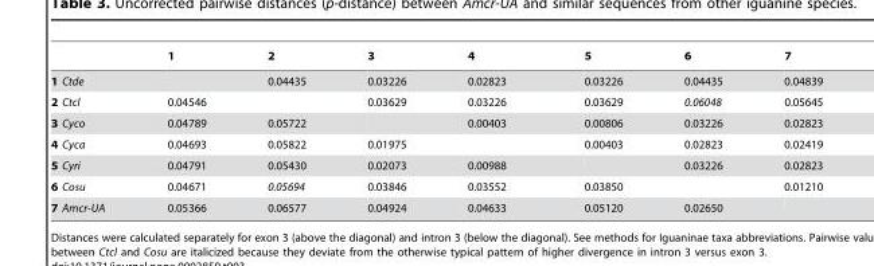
<table><thead><tr><td></td><td>1</td><td>2</td><td>3</td><td>4</td><td>5</td><td>6</td><td>7</td></tr></thead><tbody><tr><td>1 Ctde</td><td></td><td>0.04435</td><td>0.03226</td><td>0.02823</td><td>0.03226</td><td>0.04435</td><td>0.04839</td></tr><tr><td>2 Ctcl</td><td>0.04546</td><td></td><td>0.03629</td><td>0.03226</td><td>0.03629</td><td>0.06048</td><td>0.05645</td></tr><tr><td>3 Cyco</td><td>0.04789</td><td>0.05722</td><td></td><td>0.00403</td><td>0.00806</td><td>0.03226</td><td>0.02823</td></tr><tr><td>4 Cyca</td><td>0.04693</td><td>0.05822</td><td>0.01975</td><td></td><td>0.00403</td><td>0.02823</td><td>0.02419</td></tr><tr><td>5 Cyri</td><td>0.04791</td><td>0.05430</td><td>0.02073</td><td>0.00988</td><td></td><td>0.03226</td><td>0.02823</td></tr><tr><td>6 Cosu</td><td>0.04671</td><td>0.05694</td><td>0.03846</td><td>0.03552</td><td>0.03850</td><td></td><td>0.01210</td></tr><tr><td>7 Amcr-UA</td><td>0.05366</td><td>0.06577</td><td>0.04924</td><td>0.04633</td><td>0.05120</td><td>0.02650</td><td></td></tr></tbody></table>